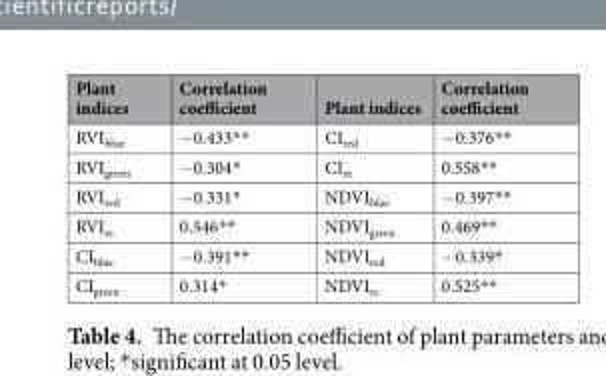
<table><thead><tr><td>Plant indices</td><td>Correlation coefficient</td><td>Plant indices</td><td>Correlation coefficient</td></tr></thead><tbody><tr><td>RVI<sub>blue</sub></td><td>−0.433**</td><td>CI<sub>red</sub></td><td>−0.376**</td></tr><tr><td>RVI<sub>green</sub></td><td>−0.304*</td><td>CI<sub>re</sub></td><td>0.558**</td></tr><tr><td>RVI<sub>red</sub></td><td>−0.331*</td><td>NDVI<sub>blue</sub></td><td>−0.397**</td></tr><tr><td>RVI<sub>re</sub></td><td>0.546**</td><td>NDVI<sub>green</sub></td><td>0.469**</td></tr><tr><td>CI<sub>blue</sub></td><td>−0.391**</td><td>NDVI<sub>red</sub></td><td>−0.339*</td></tr><tr><td>CI<sub>green</sub></td><td>0.314*</td><td>NDVI<sub>re</sub></td><td>0.525**</td></tr></tbody></table>